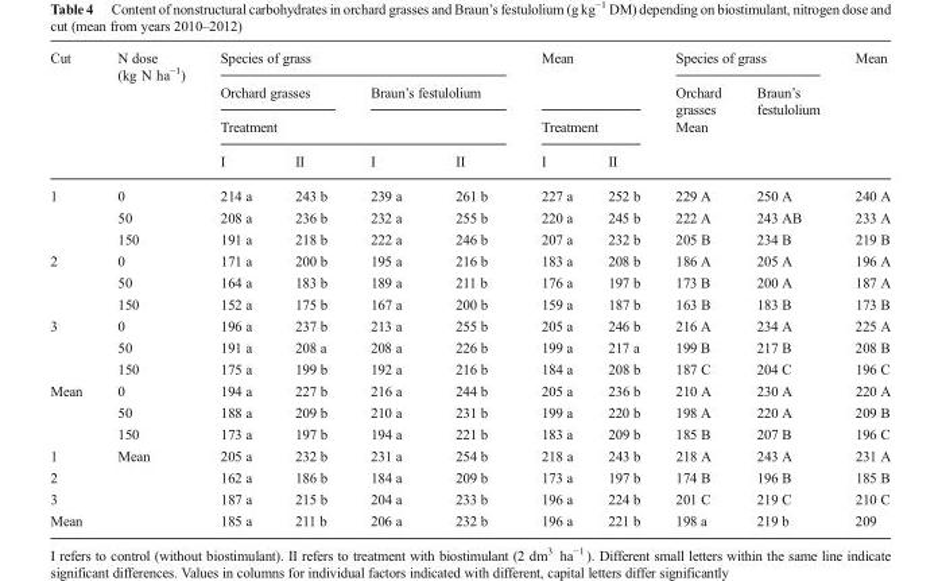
<table><thead><tr><td rowspan="4">Cut</td><td rowspan="4">N dose (kg N ha<sup>−1</sup>)</td><td colspan="4">Species of grass</td><td rowspan="3" colspan="2">Mean Treatment</td><td colspan="2">Species of grass</td><td rowspan="4">Mean</td></tr><tr><td colspan="2">Orchard grasses</td><td colspan="2">Braun’s festulolium</td><td>Orchard grasses</td><td>Braun’s festulolium</td></tr><tr><td colspan="4">Treatment</td><td rowspan="2" colspan="2">Mean</td></tr><tr><td>I</td><td>II</td><td>I</td><td>II</td><td>I</td><td>II</td></tr></thead><tbody><tr><td rowspan="3">1</td><td>0</td><td>214 a</td><td>243 b</td><td>239 a</td><td>261 b</td><td>227 a</td><td>252 b</td><td>229 A</td><td>250 A</td><td>240 A</td></tr><tr><td>50</td><td>208 a</td><td>236 b</td><td>232 a</td><td>255 b</td><td>220 a</td><td>245 b</td><td>222 A</td><td>243 AB</td><td>233 A</td></tr><tr><td>150</td><td>191 a</td><td>218 b</td><td>222 a</td><td>246 b</td><td>207 a</td><td>232 b</td><td>205 B</td><td>234 B</td><td>219 B</td></tr><tr><td rowspan="3">2</td><td>0</td><td>171 a</td><td>200 b</td><td>195 a</td><td>216 b</td><td>183 a</td><td>208 b</td><td>186 A</td><td>205 A</td><td>196 A</td></tr><tr><td>50</td><td>164 a</td><td>183 b</td><td>189 a</td><td>211 b</td><td>176 a</td><td>197 b</td><td>173 B</td><td>200 A</td><td>187 A</td></tr><tr><td>150</td><td>152 a</td><td>175 b</td><td>167 a</td><td>200 b</td><td>159 a</td><td>187 b</td><td>163 B</td><td>183 B</td><td>173 B</td></tr><tr><td rowspan="3">3</td><td>0</td><td>196 a</td><td>237 b</td><td>213 a</td><td>255 b</td><td>205 a</td><td>246 b</td><td>216 A</td><td>234 A</td><td>225 A</td></tr><tr><td>50</td><td>191 a</td><td>208 a</td><td>208 a</td><td>226 b</td><td>199 a</td><td>217 a</td><td>199 B</td><td>217 B</td><td>208 B</td></tr><tr><td>150</td><td>175 a</td><td>199 b</td><td>192 a</td><td>216 b</td><td>184 a</td><td>208 b</td><td>187 C</td><td>204 C</td><td>196 C</td></tr><tr><td rowspan="3">Mean</td><td>0</td><td>194 a</td><td>227 b</td><td>216 a</td><td>244 b</td><td>205 a</td><td>236 b</td><td>210 A</td><td>230 A</td><td>220 A</td></tr><tr><td>50</td><td>188 a</td><td>209 b</td><td>210 a</td><td>231 b</td><td>199 a</td><td>220 b</td><td>198 A</td><td>220 A</td><td>209 B</td></tr><tr><td>150</td><td>173 a</td><td>197 b</td><td>194 a</td><td>221 b</td><td>183 a</td><td>209 b</td><td>185 B</td><td>207 B</td><td>196 C</td></tr><tr><td>1</td><td rowspan="3">Mean</td><td>205 a</td><td>232 b</td><td>231 a</td><td>254 b</td><td>218 a</td><td>243 b</td><td>218 A</td><td>243 A</td><td>231 A</td></tr><tr><td>2</td><td>162 a</td><td>186 b</td><td>184 a</td><td>209 b</td><td>173 a</td><td>197 b</td><td>174 B</td><td>196 B</td><td>185 B</td></tr><tr><td>3</td><td>187 a</td><td>215 b</td><td>204 a</td><td>233 b</td><td>196 a</td><td>224 b</td><td>201 C</td><td>219 C</td><td>210 C</td></tr><tr><td colspan="2">Mean</td><td>185 a</td><td>211 b</td><td>206 a</td><td>232 b</td><td>196 a</td><td>221 b</td><td>198 a</td><td>219 b</td><td>209</td></tr></tbody></table>